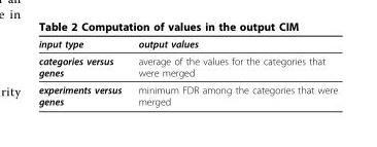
<table><thead><tr><td>input type</td><td>output values</td></tr></thead><tbody><tr><td>categories versus genes</td><td>average of the values for the categories that were merged</td></tr><tr><td>experiments versus genes</td><td>minimum FDR among the categories that were merged</td></tr></tbody></table>